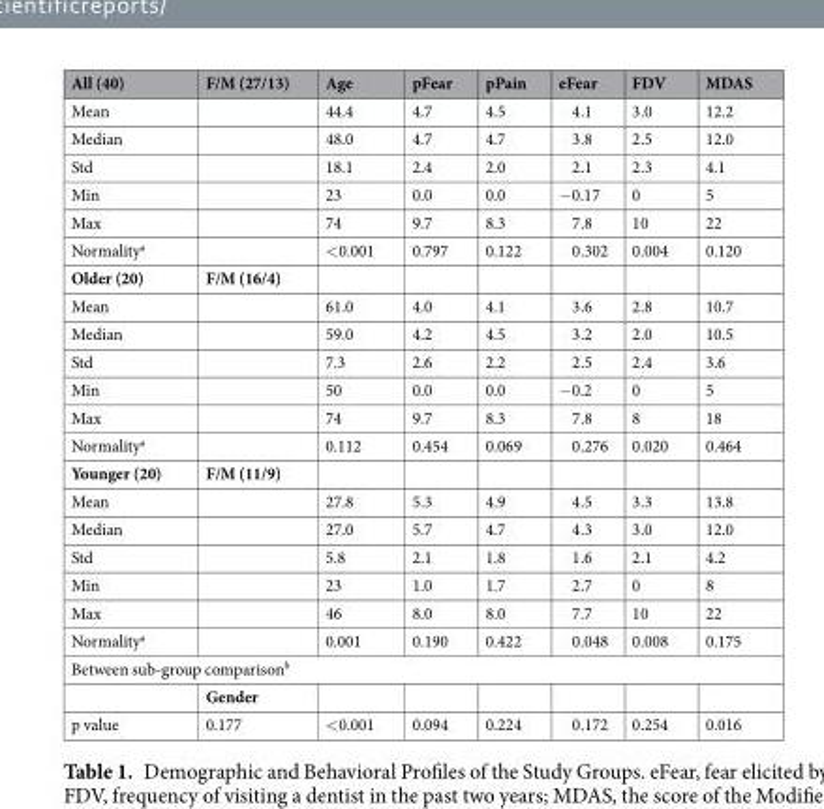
<table><thead><tr><td>All (40)</td><td>F/M (27/13)</td><td>Age</td><td>pFear</td><td>pPain</td><td>eFear</td><td>FDV</td><td>MDAS</td></tr></thead><tbody><tr><td>Mean</td><td></td><td>44.4</td><td>4.7</td><td>4.5</td><td>4.1</td><td>3.0</td><td>12.2</td></tr><tr><td>Median</td><td></td><td>48.0</td><td>4.7</td><td>4.7</td><td>3.8</td><td>2.5</td><td>12.0</td></tr><tr><td>Std</td><td></td><td>18.1</td><td>2.4</td><td>2.0</td><td>2.1</td><td>2.3</td><td>4.1</td></tr><tr><td>Min</td><td></td><td>23</td><td>0.0</td><td>0.0</td><td>−0.17</td><td>0</td><td>5</td></tr><tr><td>Max</td><td></td><td>74</td><td>9.7</td><td>8.3</td><td>7.8</td><td>10</td><td>22</td></tr><tr><td>Normality<sup>a</sup></td><td></td><td>&lt;0.001</td><td>0.797</td><td>0.122</td><td>0.302</td><td>0.004</td><td>0.120</td></tr><tr><td>Older (20)</td><td>F/M (16/4)</td><td></td><td></td><td></td><td></td><td></td><td></td></tr><tr><td>Mean</td><td></td><td>61.0</td><td>4.0</td><td>4.1</td><td>3.6</td><td>2.8</td><td>10.7</td></tr><tr><td>Median</td><td></td><td>59.0</td><td>4.2</td><td>4.5</td><td>3.2</td><td>2.0</td><td>10.5</td></tr><tr><td>Std</td><td></td><td>7.3</td><td>2.6</td><td>2.2</td><td>2.5</td><td>2.4</td><td>3.6</td></tr><tr><td>Min</td><td></td><td>50</td><td>0.0</td><td>0.0</td><td>−0.2</td><td>0</td><td>5</td></tr><tr><td>Max</td><td></td><td>74</td><td>9.7</td><td>8.3</td><td>7.8</td><td>8</td><td>18</td></tr><tr><td>Normality<sup>a</sup></td><td></td><td>0.112</td><td>0.454</td><td>0.069</td><td>0.276</td><td>0.020</td><td>0.464</td></tr><tr><td>Younger (20)</td><td>F/M (11/9)</td><td></td><td></td><td></td><td></td><td></td><td></td></tr><tr><td>Mean</td><td></td><td>27.8</td><td>5.3</td><td>4.9</td><td>4.5</td><td>3.3</td><td>13.8</td></tr><tr><td>Median</td><td></td><td>27.0</td><td>5.7</td><td>4.7</td><td>4.3</td><td>3.0</td><td>12.0</td></tr><tr><td>Std</td><td></td><td>5.8</td><td>2.1</td><td>1.8</td><td>1.6</td><td>2.1</td><td>4.2</td></tr><tr><td>Min</td><td></td><td>23</td><td>1.0</td><td>1.7</td><td>2.7</td><td>0</td><td>8</td></tr><tr><td>Max</td><td></td><td>46</td><td>8.0</td><td>8.0</td><td>7.7</td><td>10</td><td>22</td></tr><tr><td>Normality<sup>a</sup></td><td></td><td>0.001</td><td>0.190</td><td>0.422</td><td>0.048</td><td>0.008</td><td>0.175</td></tr><tr><td colspan="8">Between sub-group comparison<sup>b</sup></td></tr><tr><td></td><td>Gender</td><td></td><td></td><td></td><td></td><td></td><td></td></tr><tr><td>p value</td><td>0.177</td><td>&lt;0.001</td><td>0.094</td><td>0.224</td><td>0.172</td><td>0.254</td><td>0.016</td></tr></tbody></table>